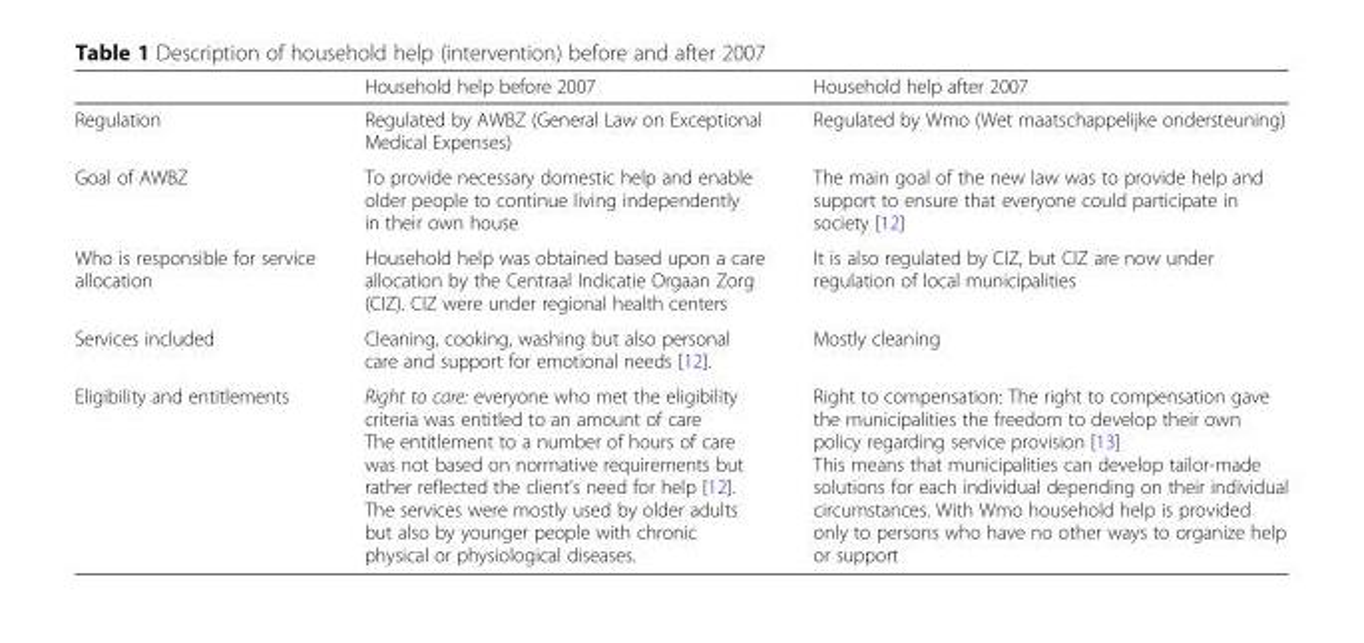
<table><thead><tr><td></td><td>Household help before 2007</td><td>Household help after 2007</td></tr></thead><tbody><tr><td>Regulation</td><td>Regulated by AWBZ (General Law on Exceptional Medical Expenses)</td><td>Regulated by Wmo (Wet maatschappelijke ondersteuning)</td></tr><tr><td>Goal of AWBZ</td><td>To provide necessary domestic help and enable older people to continue living independently in their own house</td><td>The main goal of the new law was to provide help and support to ensure that everyone could participate in society [12]</td></tr><tr><td>Who is responsible for service allocation</td><td>Household help was obtained based upon a care allocation by the Centraal Indicatie Orgaan Zorg (CIZ). CIZ were under regional health centers</td><td>It is also regulated by CIZ, but CIZ are now under regulation of local municipalities</td></tr><tr><td>Services included</td><td>Cleaning, cooking, washing but also personal care and support for emotional needs [12].</td><td>Mostly cleaning</td></tr><tr><td>Eligibility and entitlements</td><td>Right to care: everyone who met the eligibility criteria was entitled to an amount of care The entitlement to a number of hours of care was not based on normative requirements but rather reflected the client’s need for help [12]. The services were mostly used by older adults but also by younger people with chronic physical or physiological diseases.</td><td>Right to compensation: The right to compensation gave the municipalities the freedom to develop their own policy regarding service provision [13] This means that municipalities can develop tailor-made solutions for each individual depending on their individual circumstances. With Wmo household help is provided only to persons who have no other ways to organize help or support</td></tr></tbody></table>